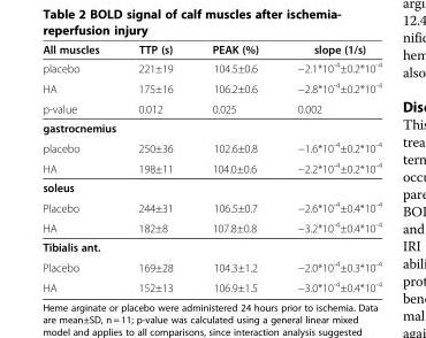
<table><thead><tr><td>All muscles</td><td>TTP (s)</td><td>PEAK (%)</td><td>slope (1/s)</td></tr></thead><tbody><tr><td>placebo</td><td>221±19</td><td>104.5±0.6</td><td>−2.1*10<sup>-4</sup>±0.2*10<sup>-4</sup></td></tr><tr><td>HA</td><td>175±16</td><td>106.2±0.6</td><td>−2.8*10<sup>-4</sup>±0.2*10<sup>-4</sup></td></tr><tr><td>p-value</td><td>0.012</td><td>0.025</td><td>0.002</td></tr><tr><td colspan="4">gastrocnemius</td></tr><tr><td>placebo</td><td>250±36</td><td>102.6±0.8</td><td>−1.6*10<sup>-4</sup>±0.2*10<sup>-4</sup></td></tr><tr><td>HA</td><td>198±11</td><td>104.0±0.6</td><td>−2.2*10<sup>-4</sup>±0.2*10<sup>-4</sup></td></tr><tr><td colspan="4">soleus</td></tr><tr><td>Placebo</td><td>244±31</td><td>106.5±0.7</td><td>−2.6*10<sup>-4</sup>±0.4*10<sup>-4</sup></td></tr><tr><td>HA</td><td>182±8</td><td>107.8±0.8</td><td>−3.2*10<sup>-4</sup>±0.4*10<sup>-4</sup></td></tr><tr><td colspan="4">Tibialis ant.</td></tr><tr><td>Placebo</td><td>169±28</td><td>104.3±1.2</td><td>−2.0*10<sup>-4</sup>±0.3*10<sup>-4</sup></td></tr><tr><td>HA</td><td>152±13</td><td>106.9±1.5</td><td>−3.0*10<sup>-4</sup>±0.4*10<sup>-4</sup></td></tr></tbody></table>